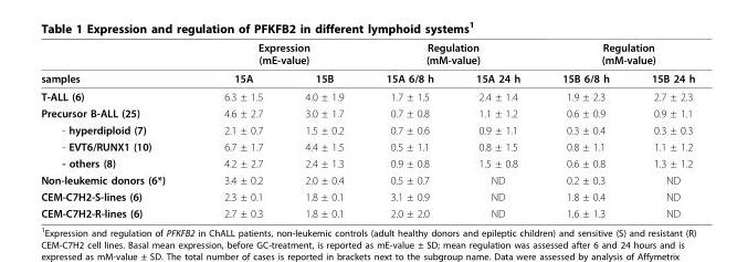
<table><thead><tr><td rowspan="2">samples</td><td colspan="2">Expression (mE-value)</td><td colspan="2">Regulation (mM-value)</td><td colspan="2">Regulation (mM-value)</td></tr><tr><td>15A</td><td>15B</td><td>15A 6/8 h</td><td>15A 24 h</td><td>15B 6/8 h</td><td>15B 24 h</td></tr></thead><tbody><tr><td>T-ALL (6)</td><td>6.3 ± 1.5</td><td>4.0 ± 1.9</td><td>1.7 ± 1.5</td><td>2.4 ± 1.4</td><td>1.9 ± 2.3</td><td>2.7 ± 2.3</td></tr><tr><td>Precursor B-ALL (25)</td><td>4.6 ± 2.7</td><td>3.0 ± 1.7</td><td>0.7 ± 0.8</td><td>1.1 ± 1.2</td><td>0.6 ± 0.9</td><td>0.9 ± 1.1</td></tr><tr><td>- hyperdiploid (7)</td><td>2.1 ± 0.7</td><td>1.5 ± 0.2</td><td>0.7 ± 0.6</td><td>0.9 ± 1.1</td><td>0.3 ± 0.4</td><td>0.3 ± 0.3</td></tr><tr><td>- EVT6/RUNX1 (10)</td><td>6.7 ± 1.7</td><td>4.4 ± 1.5</td><td>0.5 ± 1.1</td><td>0.8 ± 1.5</td><td>0.8 ± 1.1</td><td>1.1 ± 1.2</td></tr><tr><td>- others (8)</td><td>4.2 ± 2.7</td><td>2.4 ± 1.3</td><td>0.9 ± 0.8</td><td>1.5 ± 0.8</td><td>0.6 ± 0.8</td><td>1.3 ± 1.2</td></tr><tr><td>Non-leukemic donors (6*)</td><td>3.4 ± 0.2</td><td>2.0 ± 0.4</td><td>0.5 ± 0.7</td><td>ND</td><td>0.2 ± 0.3</td><td>ND</td></tr><tr><td>CEM-C7H2-S-lines (6)</td><td>2.3 ± 0.1</td><td>1.8 ± 0.1</td><td>3.1 ± 0.9</td><td>ND</td><td>1.8 ± 0.4</td><td>ND</td></tr><tr><td>CEM-C7H2-R-lines (6)</td><td>2.7 ± 0.3</td><td>1.8 ± 0.1</td><td>2.0 ± 2.0</td><td>ND</td><td>1.6 ± 1.3</td><td>ND</td></tr></tbody></table>